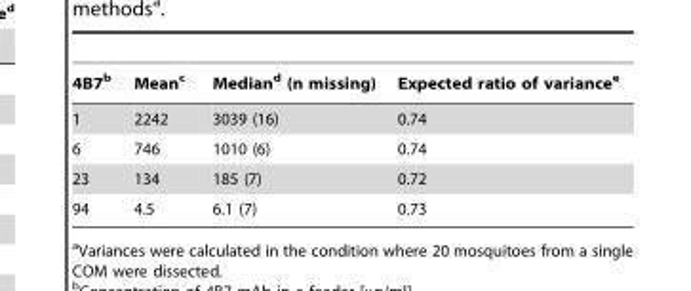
<table><thead><tr><td>4B7<sup>b</sup></td><td>Mean<sup>c</sup></td><td>Median<sup>d</sup> (n missing)</td><td>Expected ratio of variance<sup>e</sup></td></tr></thead><tbody><tr><td>1</td><td>2242</td><td>3039 (16)</td><td>0.74</td></tr><tr><td>6</td><td>746</td><td>1010 (6)</td><td>0.74</td></tr><tr><td>23</td><td>134</td><td>185 (7)</td><td>0.72</td></tr><tr><td>94</td><td>4.5</td><td>6.1 (7)</td><td>0.73</td></tr></tbody></table>